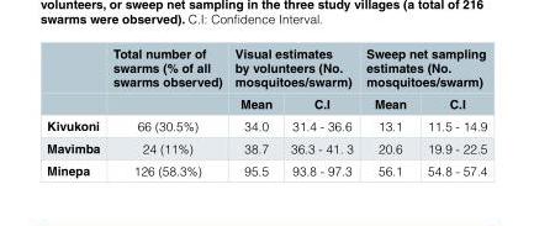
<table><thead><tr><td rowspan="2"></td><td rowspan="2">Total number of swarms (% of all swarms observed)</td><td colspan="2">Visual estimates by volunteers (No. mosquitoes/swarm)</td><td colspan="2">Sweep net sampling estimates (No. mosquitoes/swarm)</td></tr><tr><td>Mean</td><td>C.I</td><td>Mean</td><td>C.I</td></tr></thead><tbody><tr><td>Kivukoni</td><td>66 (30.5%)</td><td>34.0</td><td>31.4 - 36.6</td><td>13.1</td><td>11.5 - 14.9</td></tr><tr><td>Mavimba</td><td>24 (11%)</td><td>38.7</td><td>36.3 - 41. 3</td><td>20.6</td><td>19.9 - 22.5</td></tr><tr><td>Minepa</td><td>126 (58.3%)</td><td>95.5</td><td>93.8 - 97.3</td><td>56.1</td><td>54.8 - 57.4</td></tr></tbody></table>